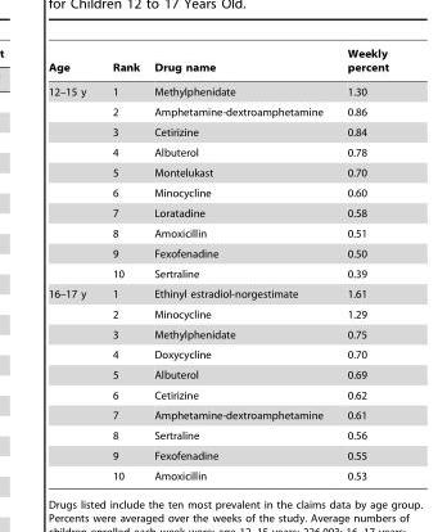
<table><thead><tr><td>Age</td><td>Rank</td><td>Drug name</td><td>Weekly percent</td></tr></thead><tbody><tr><td rowspan="10">12–15 y</td><td>1</td><td>Methylphenidate</td><td>1.30</td></tr><tr><td>2</td><td>Amphetamine-dextroamphetamine</td><td>0.86</td></tr><tr><td>3</td><td>Cetirizine</td><td>0.84</td></tr><tr><td>4</td><td>Albuterol</td><td>0.78</td></tr><tr><td>5</td><td>Montelukast</td><td>0.70</td></tr><tr><td>6</td><td>Minocycline</td><td>0.60</td></tr><tr><td>7</td><td>Loratadine</td><td>0.58</td></tr><tr><td>8</td><td>Amoxicillin</td><td>0.51</td></tr><tr><td>9</td><td>Fexofenadine</td><td>0.50</td></tr><tr><td>10</td><td>Sertraline</td><td>0.39</td></tr><tr><td rowspan="10">16–17 y</td><td>1</td><td>Ethinyl estradiol-norgestimate</td><td>1.61</td></tr><tr><td>2</td><td>Minocycline</td><td>1.29</td></tr><tr><td>3</td><td>Methylphenidate</td><td>0.75</td></tr><tr><td>4</td><td>Doxycycline</td><td>0.70</td></tr><tr><td>5</td><td>Albuterol</td><td>0.69</td></tr><tr><td>6</td><td>Cetirizine</td><td>0.62</td></tr><tr><td>7</td><td>Amphetamine-dextroamphetamine</td><td>0.61</td></tr><tr><td>8</td><td>Sertraline</td><td>0.56</td></tr><tr><td>9</td><td>Fexofenadine</td><td>0.55</td></tr><tr><td>10</td><td>Amoxicillin</td><td>0.53</td></tr></tbody></table>